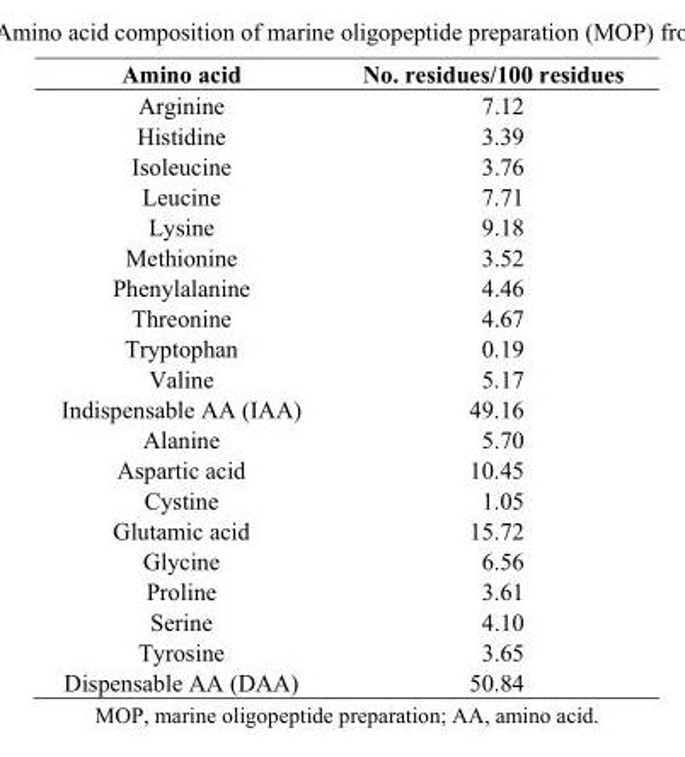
<table><thead><tr><td>Amino acid</td><td>No. residues/100 residues</td></tr></thead><tbody><tr><td>Arginine</td><td>7.12</td></tr><tr><td>Histidine</td><td>3.39</td></tr><tr><td>Isoleucine</td><td>3.76</td></tr><tr><td>Leucine</td><td>7.71</td></tr><tr><td>Lysine</td><td>9.18</td></tr><tr><td>Methionine</td><td>3.52</td></tr><tr><td>Phenylalanine</td><td>4.46</td></tr><tr><td>Threonine</td><td>4.67</td></tr><tr><td>Tryptophan</td><td>0.19</td></tr><tr><td>Valine</td><td>5.17</td></tr><tr><td>Indispensable AA (IAA)</td><td>49.16</td></tr><tr><td>Alanine</td><td>5.70</td></tr><tr><td>Aspartic acid</td><td>10.45</td></tr><tr><td>Cystine</td><td>1.05</td></tr><tr><td>Glutamic acid</td><td>15.72</td></tr><tr><td>Glycine</td><td>6.56</td></tr><tr><td>Proline</td><td>3.61</td></tr><tr><td>Serine</td><td>4.10</td></tr><tr><td>Tyrosine</td><td>3.65</td></tr><tr><td>Dispensable AA (DAA)</td><td>50.84</td></tr></tbody></table>